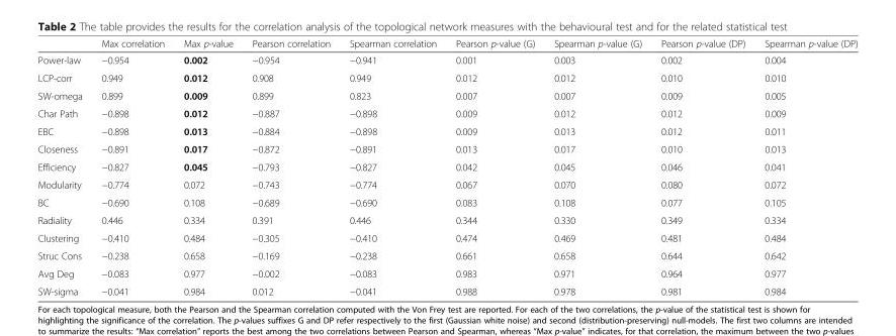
<table><thead><tr><td></td><td>Max correlation</td><td>Max p-value</td><td>Pearson correlation</td><td>Spearman correlation</td><td>Pearson p-value (G)</td><td>Spearman p-value (G)</td><td>Pearson p-value (DP)</td><td>Spearman p-value (DP)</td></tr></thead><tbody><tr><td>Power-law</td><td>−0.954</td><td>0.002</td><td>−0.954</td><td>−0.941</td><td>0.001</td><td>0.003</td><td>0.002</td><td>0.004</td></tr><tr><td>LCP-corr</td><td>0.949</td><td>0.012</td><td>0.908</td><td>0.949</td><td>0.012</td><td>0.012</td><td>0.010</td><td>0.010</td></tr><tr><td>SW-omega</td><td>0.899</td><td>0.009</td><td>0.899</td><td>0.823</td><td>0.007</td><td>0.007</td><td>0.009</td><td>0.005</td></tr><tr><td>Char Path</td><td>−0.898</td><td>0.012</td><td>−0.887</td><td>−0.898</td><td>0.009</td><td>0.012</td><td>0.012</td><td>0.009</td></tr><tr><td>EBC</td><td>−0.898</td><td>0.013</td><td>−0.884</td><td>−0.898</td><td>0.009</td><td>0.013</td><td>0.012</td><td>0.011</td></tr><tr><td>Closeness</td><td>−0.891</td><td>0.017</td><td>−0.872</td><td>−0.891</td><td>0.013</td><td>0.017</td><td>0.010</td><td>0.013</td></tr><tr><td>Efficiency</td><td>−0.827</td><td>0.045</td><td>−0.793</td><td>−0.827</td><td>0.042</td><td>0.045</td><td>0.046</td><td>0.041</td></tr><tr><td>Modularity</td><td>−0.774</td><td>0.072</td><td>−0.743</td><td>−0.774</td><td>0.067</td><td>0.070</td><td>0.080</td><td>0.072</td></tr><tr><td>BC</td><td>−0.690</td><td>0.108</td><td>−0.689</td><td>−0.690</td><td>0.083</td><td>0.108</td><td>0.077</td><td>0.105</td></tr><tr><td>Radiality</td><td>0.446</td><td>0.334</td><td>0.391</td><td>0.446</td><td>0.344</td><td>0.330</td><td>0.349</td><td>0.334</td></tr><tr><td>Clustering</td><td>−0.410</td><td>0.484</td><td>−0.305</td><td>−0.410</td><td>0.474</td><td>0.469</td><td>0.481</td><td>0.484</td></tr><tr><td>Struc Cons</td><td>−0.238</td><td>0.658</td><td>−0.169</td><td>−0.238</td><td>0.661</td><td>0.658</td><td>0.644</td><td>0.642</td></tr><tr><td>Avg Deg</td><td>−0.083</td><td>0.977</td><td>−0.002</td><td>−0.083</td><td>0.983</td><td>0.971</td><td>0.964</td><td>0.977</td></tr><tr><td>SW-sigma</td><td>−0.041</td><td>0.984</td><td>0.012</td><td>−0.041</td><td>0.988</td><td>0.978</td><td>0.981</td><td>0.984</td></tr></tbody></table>